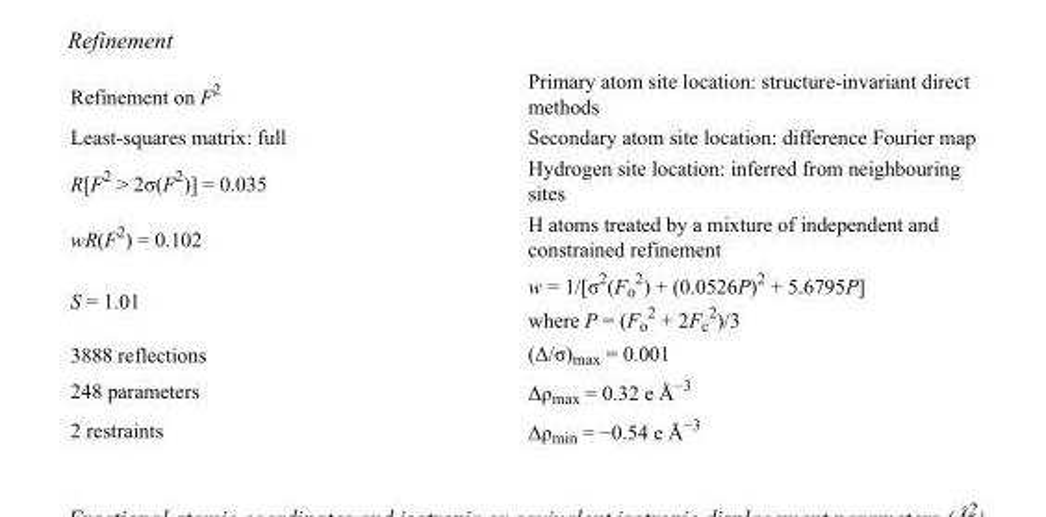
<table><tbody><tr><td>Refinement on F<sup>2</sup></td><td>Primary atom site location: structure-invariant direct methods</td></tr><tr><td>Least-squares matrix: full</td><td>Secondary atom site location: difference Fourier map</td></tr><tr><td>R[F<sup>2</sup> &gt; 2σ(F<sup>2</sup>)] = 0.035</td><td>Hydrogen site location: inferred from neighbouring sites</td></tr><tr><td>wR(F<sup>2</sup>) = 0.102</td><td>H atoms treated by a mixture of independent and constrained refinement</td></tr><tr><td>S = 1.01</td><td>w = 1/[σ<sup>2</sup>(F<sub>o</sub> <sup>2</sup>) + (0.0526P)<sup>2</sup> + 5.6795P] where P = (F<sub>o</sub> <sup>2</sup> + 2F<sub>c</sub> <sup>2</sup>)/3</td></tr><tr><td>3888 reflections</td><td>(Δ/σ)<sub>max</sub> = 0.001</td></tr><tr><td>248 parameters</td><td>Δρ<sub>max</sub> = 0.32 e Å<sup>−3</sup></td></tr><tr><td>2 restraints</td><td>Δρ<sub>min</sub> = −0.54 e Å<sup>−3</sup></td></tr></tbody></table>